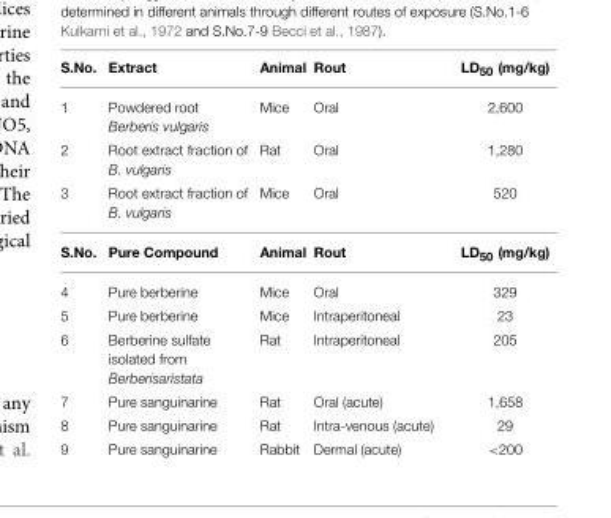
<table><thead><tr><td>S.No.</td><td>Extract</td><td>Animal</td><td>Rout</td><td>LD<sub>50</sub> (mg/kg)</td></tr></thead><tbody><tr><td>1</td><td>Powdered root Berberis vulgaris</td><td>Mice</td><td>Oral</td><td>2,600</td></tr><tr><td>2</td><td>Root extract fraction of B. vulgaris</td><td>Rat</td><td>Oral</td><td>1,280</td></tr><tr><td>3</td><td>Root extract fraction of B. vulgaris</td><td>Mice</td><td>Oral</td><td>520</td></tr><tr><td>S.No.</td><td>Pure Compound</td><td>Animal</td><td>Rout</td><td>LD<sub>50</sub> (mg/kg)</td></tr><tr><td>4</td><td>Pure berberine</td><td>Mice</td><td>Oral</td><td>329</td></tr><tr><td>5</td><td>Pure berberine</td><td>Mice</td><td>Intraperitoneal</td><td>23</td></tr><tr><td>6</td><td>Berberine sulfate isolated from Berberisaristata</td><td>Rat</td><td>Intraperitoneal</td><td>205</td></tr><tr><td>7</td><td>Pure sanguinarine</td><td>Rat</td><td>Oral (acute)</td><td>1,658</td></tr><tr><td>8</td><td>Pure sanguinarine</td><td>Rat</td><td>Intra-venous (acute)</td><td>29</td></tr><tr><td>9</td><td>Pure sanguinarine</td><td>Rabbit</td><td>Dermal (acute)</td><td>&lt;200</td></tr></tbody></table>